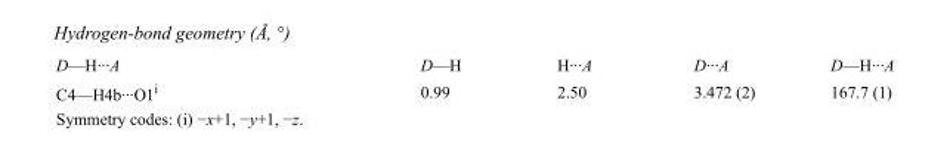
<table><tbody><tr><td>D—H···A</td><td>D—H</td><td>H···A</td><td>D···A</td><td>D—H···A</td></tr><tr><td>C4—H4b···O1<sup>i</sup></td><td>0.99</td><td>2.50</td><td>3.472 (2)</td><td>167.7 (1)</td></tr></tbody></table>